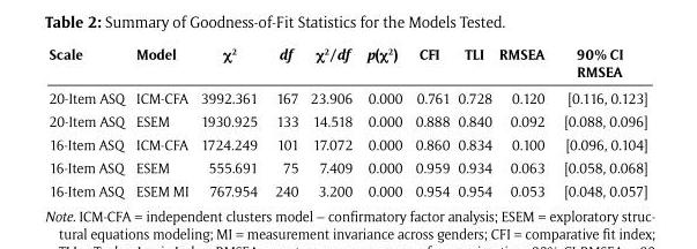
<table><thead><tr><td>Scale</td><td>Model</td><td>χ<sup>2</sup></td><td>df</td><td>χ<sup>2</sup>/df</td><td>p(χ<sup>2</sup>)</td><td>CFI</td><td>TLI</td><td>RMSEA</td><td>90% CI RMSEA</td></tr></thead><tbody><tr><td>20-Item ASQ</td><td>ICM-CFA</td><td>3992.361</td><td>167</td><td>23.906</td><td>0.000</td><td>0.761</td><td>0.728</td><td>0.120</td><td>[0.116, 0.123]</td></tr><tr><td>20-Item ASQ</td><td>ESEM</td><td>1930.925</td><td>133</td><td>14.518</td><td>0.000</td><td>0.888</td><td>0.840</td><td>0.092</td><td>[0.088, 0.096]</td></tr><tr><td>16-Item ASQ</td><td>ICM-CFA</td><td>1724.249</td><td>101</td><td>17.072</td><td>0.000</td><td>0.860</td><td>0.834</td><td>0.100</td><td>[0.096, 0.104]</td></tr><tr><td>16-Item ASQ</td><td>ESEM</td><td>555.691</td><td>75</td><td>7.409</td><td>0.000</td><td>0.959</td><td>0.934</td><td>0.063</td><td>[0.058, 0.068]</td></tr><tr><td>16-Item ASQ</td><td>ESEM MI</td><td>767.954</td><td>240</td><td>3.200</td><td>0.000</td><td>0.954</td><td>0.954</td><td>0.053</td><td>[0.048, 0.057]</td></tr></tbody></table>